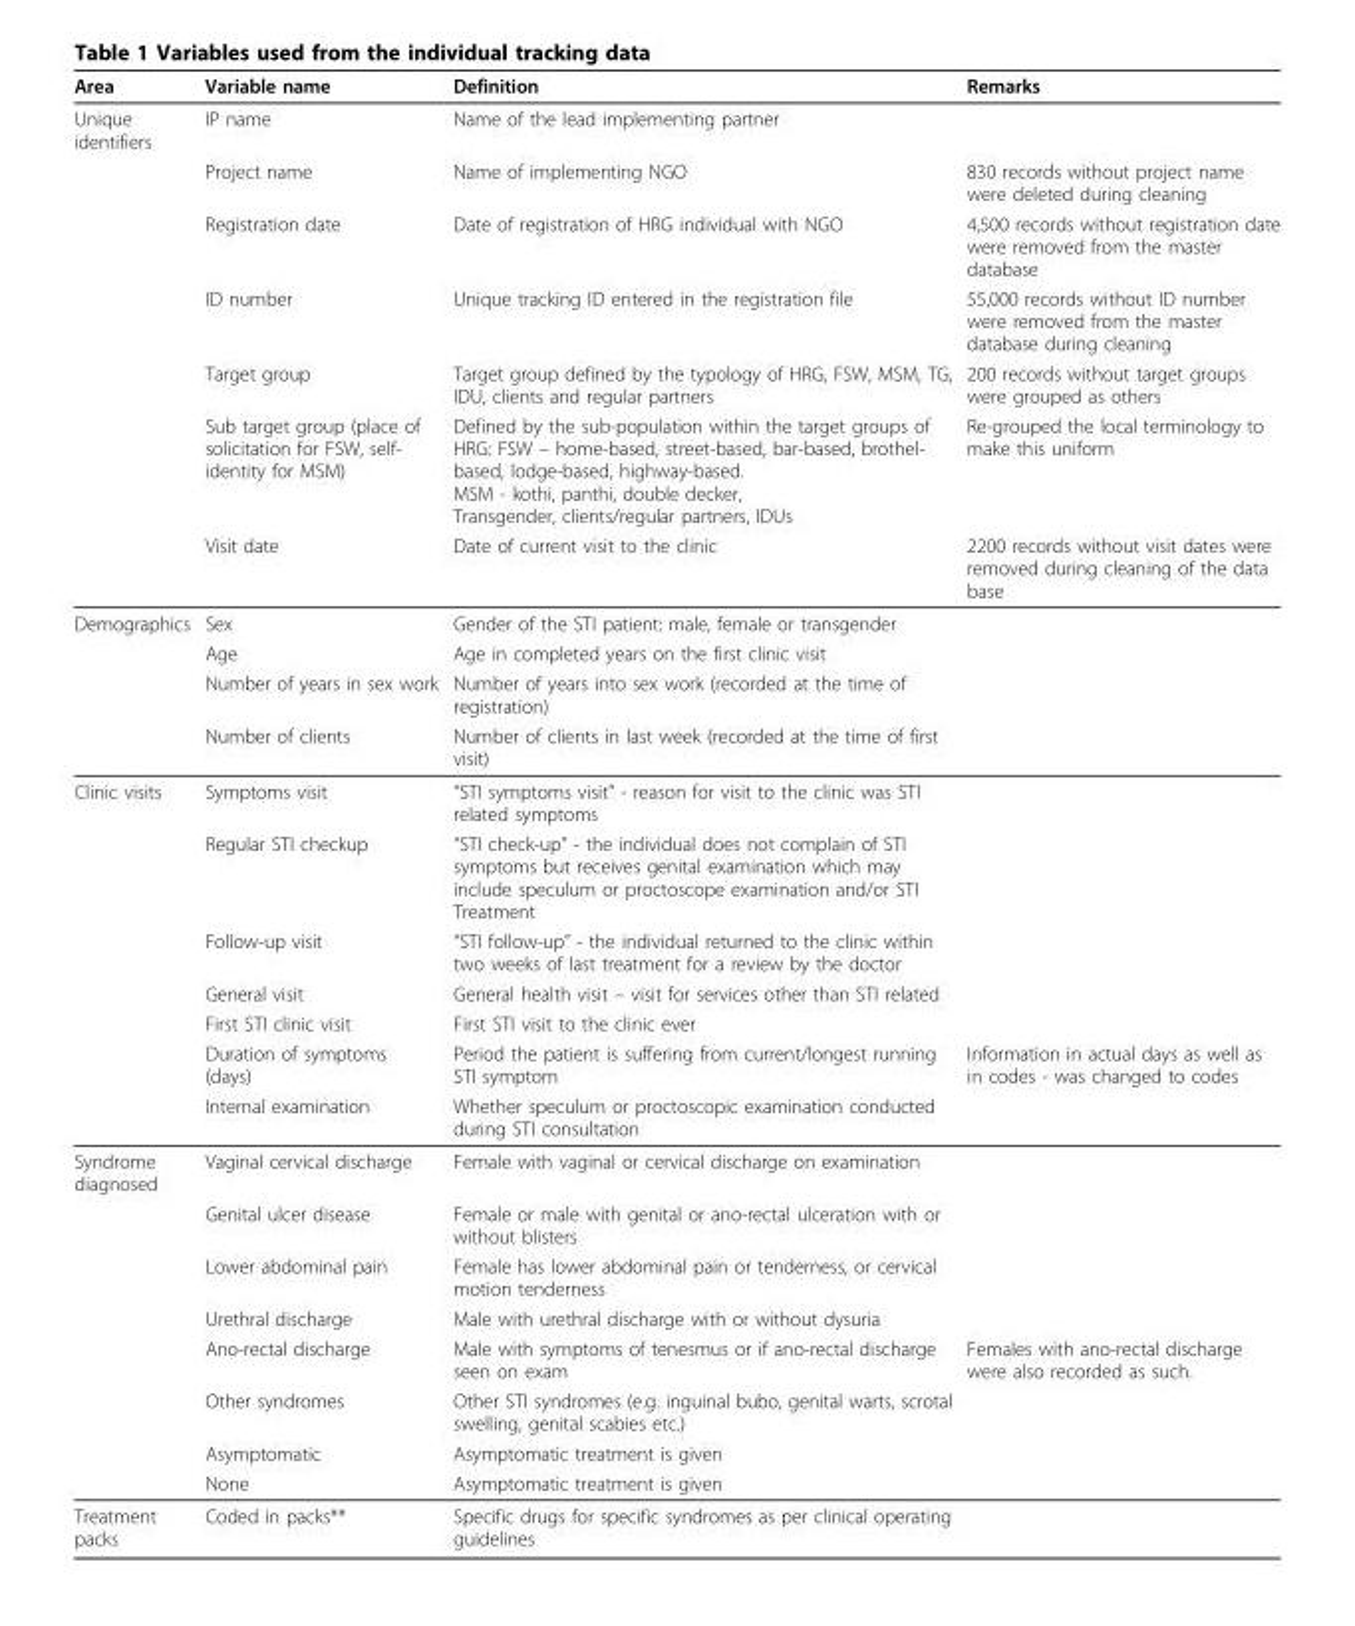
<table><thead><tr><td>Area</td><td>Variable name</td><td>Definition</td><td>Remarks</td></tr></thead><tbody><tr><td rowspan="7">Unique identifiers</td><td>IP name</td><td>Name of the lead implementing partner</td><td></td></tr><tr><td>Project name</td><td>Name of implementing NGO</td><td>830 records without project name were deleted during cleaning</td></tr><tr><td>Registration date</td><td>Date of registration of HRG individual with NGO</td><td>4,500 records without registration date were removed from the master database</td></tr><tr><td>ID number</td><td>Unique tracking ID entered in the registration file</td><td>55,000 records without ID number were removed from the master database during cleaning</td></tr><tr><td>Target group</td><td>Target group defined by the typology of HRG, FSW, MSM, TG, IDU, clients and regular partners</td><td>200 records without target groups were grouped as others</td></tr><tr><td>Sub target group (place of solicitation for FSW, self- identity for MSM)</td><td>Defined by the sub-population within the target groups of HRG: FSW – home-based, street-based, bar-based, brothel- based, lodge-based, highway-based. MSM - kothi, panthi, double decker, Transgender, clients/regular partners, IDUs</td><td>Re-grouped the local terminology to make this uniform</td></tr><tr><td>Visit date</td><td>Date of current visit to the clinic</td><td>2200 records without visit dates were removed during cleaning of the data base</td></tr><tr><td rowspan="4">Demographics</td><td>Sex</td><td>Gender of the STI patient: male, female or transgender</td><td></td></tr><tr><td>Age</td><td>Age in completed years on the first clinic visit</td><td></td></tr><tr><td>Number of years in sex work</td><td>Number of years into sex work (recorded at the time of registration)</td><td></td></tr><tr><td>Number of clients</td><td>Number of clients in last week (recorded at the time of first visit)</td><td></td></tr><tr><td rowspan="7">Clinic visits</td><td>Symptoms visit</td><td>“STI symptoms visit” - reason for visit to the clinic was STI related symptoms</td><td></td></tr><tr><td>Regular STI checkup</td><td>“STI check-up” - the individual does not complain of STI symptoms but receives genital examination which may include speculum or proctoscope examination and/or STI Treatment</td><td></td></tr><tr><td>Follow-up visit</td><td>“STI follow-up” - the individual returned to the clinic within two weeks of last treatment for a review by the doctor</td><td></td></tr><tr><td>General visit</td><td>General health visit – visit for services other than STI related</td><td></td></tr><tr><td>First STI clinic visit</td><td>First STI visit to the clinic ever</td><td></td></tr><tr><td>Duration of symptoms (days)</td><td>Period the patient is suffering from current/longest running STI symptom</td><td>Information in actual days as well as in codes - was changed to codes</td></tr><tr><td>Internal examination</td><td>Whether speculum or proctoscopic examination conducted during STI consultation</td><td></td></tr><tr><td rowspan="8">Syndrome diagnosed</td><td>Vaginal cervical discharge</td><td>Female with vaginal or cervical discharge on examination</td><td></td></tr><tr><td>Genital ulcer disease</td><td>Female or male with genital or ano-rectal ulceration with or without blisters</td><td></td></tr><tr><td>Lower abdominal pain</td><td>Female has lower abdominal pain or tenderness, or cervical motion tenderness</td><td></td></tr><tr><td>Urethral discharge</td><td>Male with urethral discharge with or without dysuria</td><td></td></tr><tr><td>Ano-rectal discharge</td><td>Male with symptoms of tenesmus or if ano-rectal discharge seen on exam</td><td>Females with ano-rectal discharge were also recorded as such.</td></tr><tr><td>Other syndromes</td><td>Other STI syndromes (e.g. inguinal bubo, genital warts, scrotal swelling, genital scabies etc.)</td><td></td></tr><tr><td>Asymptomatic</td><td>Asymptomatic treatment is given</td><td></td></tr><tr><td>None</td><td>Asymptomatic treatment is given</td><td></td></tr><tr><td>Treatment packs</td><td>Coded in packs**</td><td>Specific drugs for specific syndromes as per clinical operating guidelines</td><td></td></tr></tbody></table>